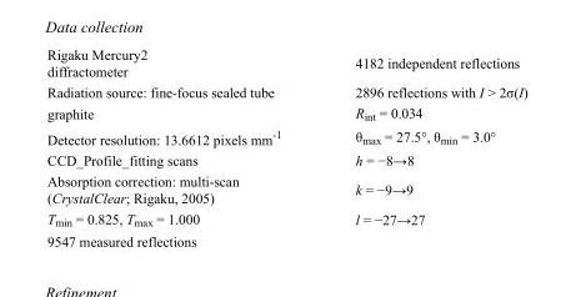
<table><tbody><tr><td>Rigaku Mercury2 diffractometer</td><td>4182 independent reflections</td></tr><tr><td>Radiation source: fine-focus sealed tube</td><td>2896 reflections with I &gt; 2σ(I)</td></tr><tr><td>graphite</td><td>R<sub>int</sub> = 0.034</td></tr><tr><td>Detector resolution: 13.6612 pixels mm<sup>-1</sup></td><td>θ<sub>max</sub> = 27.5°, θ<sub>min</sub> = 3.0°</td></tr><tr><td>CCD_Profile_fitting scans</td><td>h = −8→8</td></tr><tr><td>Absorption correction: multi-scan (CrystalClear; Rigaku, 2005)</td><td>k = −9→9</td></tr><tr><td>T<sub>min</sub> = 0.825, T<sub>max</sub> = 1.000</td><td>l = −27→27</td></tr><tr><td>9547 measured reflections</td><td></td></tr></tbody></table>